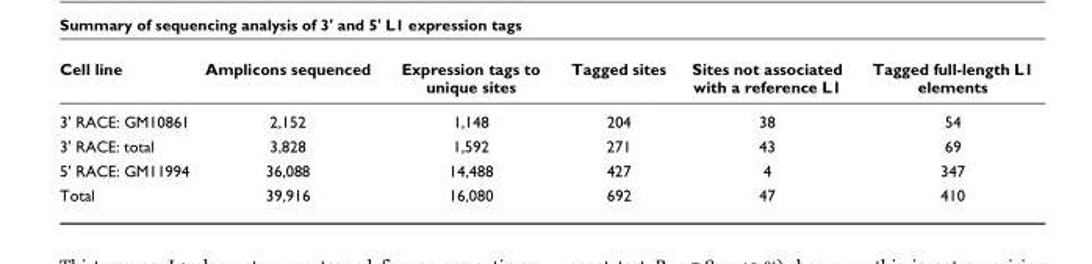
<table><thead><tr><td>Cell line</td><td>Amplicons sequenced</td><td>Expression tags to unique sites</td><td>Tagged sites</td><td>Sites not associated with a reference L1</td><td>Tagged full-length L1 elements</td></tr></thead><tbody><tr><td>3&#x27; RACE: GM10861</td><td>2,152</td><td>1,148</td><td>204</td><td>38</td><td>54</td></tr><tr><td>3&#x27; RACE: total</td><td>3,828</td><td>1,592</td><td>271</td><td>43</td><td>69</td></tr><tr><td>5&#x27; RACE: GM11994</td><td>36,088</td><td>14,488</td><td>427</td><td>4</td><td>347</td></tr><tr><td>Total</td><td>39,916</td><td>16,080</td><td>692</td><td>47</td><td>410</td></tr></tbody></table>